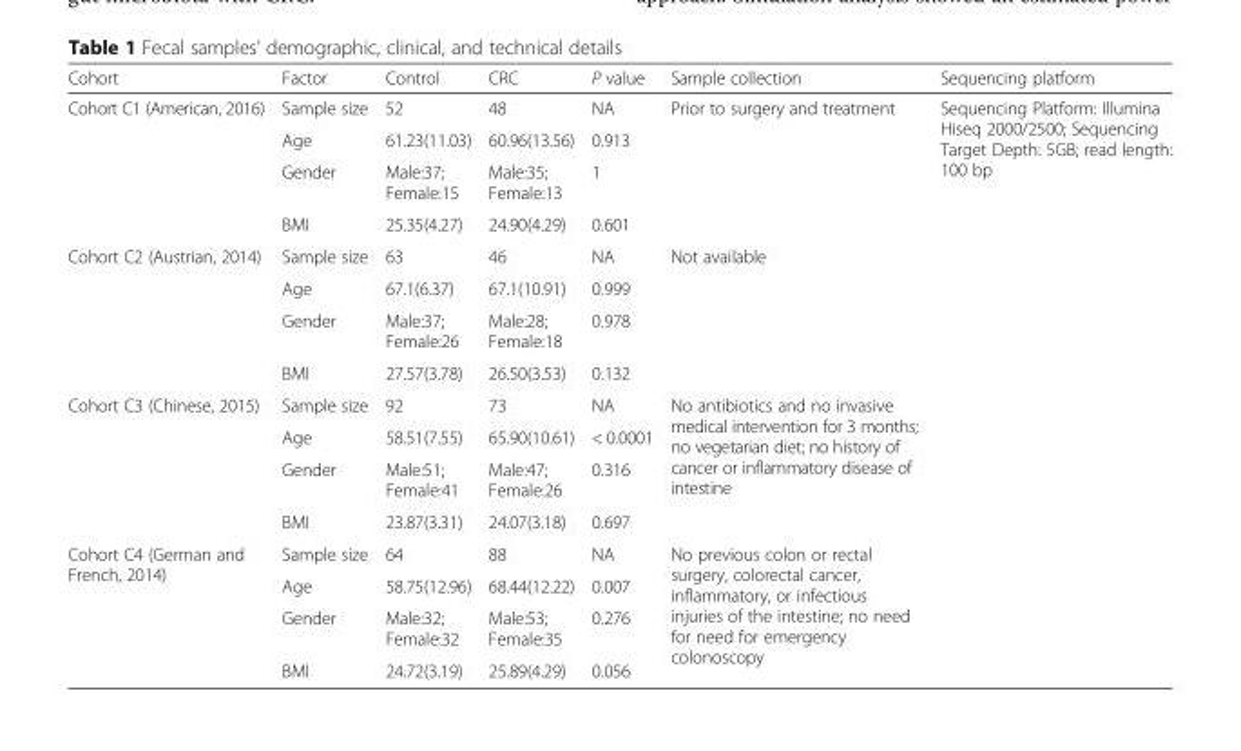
<table><thead><tr><td>Cohort</td><td>Factor</td><td>Control</td><td>CRC</td><td>P value</td><td>Sample collection</td><td>Sequencing platform</td></tr></thead><tbody><tr><td rowspan="4">Cohort C1 (American, 2016)</td><td>Sample size</td><td>52</td><td>48</td><td>NA</td><td rowspan="4">Prior to surgery and treatment</td><td rowspan="16">Sequencing Platform: Illumina Hiseq 2000/2500; Sequencing Target Depth: 5GB; read length: 100 bp</td></tr><tr><td>Age</td><td>61.23(11.03)</td><td>60.96(13.56)</td><td>0.913</td></tr><tr><td>Gender</td><td>Male:37; Female:15</td><td>Male:35; Female:13</td><td>1</td></tr><tr><td>BMI</td><td>25.35(4.27)</td><td>24.90(4.29)</td><td>0.601</td></tr><tr><td rowspan="4">Cohort C2 (Austrian, 2014)</td><td>Sample size</td><td>63</td><td>46</td><td>NA</td><td rowspan="4">Not available</td></tr><tr><td>Age</td><td>67.1(6.37)</td><td>67.1(10.91)</td><td>0.999</td></tr><tr><td>Gender</td><td>Male:37; Female:26</td><td>Male:28; Female:18</td><td>0.978</td></tr><tr><td>BMI</td><td>27.57(3.78)</td><td>26.50(3.53)</td><td>0.132</td></tr><tr><td rowspan="4">Cohort C3 (Chinese, 2015)</td><td>Sample size</td><td>92</td><td>73</td><td>NA</td><td rowspan="4">No antibiotics and no invasive medical intervention for 3 months; no vegetarian diet; no history of cancer or inflammatory disease of intestine</td></tr><tr><td>Age</td><td>58.51(7.55)</td><td>65.90(10.61)</td><td>&lt; 0.0001</td></tr><tr><td>Gender</td><td>Male:51; Female:41</td><td>Male:47; Female:26</td><td>0.316</td></tr><tr><td>BMI</td><td>23.87(3.31)</td><td>24.07(3.18)</td><td>0.697</td></tr><tr><td rowspan="4">Cohort C4 (German and French, 2014)</td><td>Sample size</td><td>64</td><td>88</td><td>NA</td><td rowspan="4">No previous colon or rectal surgery, colorectal cancer, inflammatory, or infectious injuries of the intestine; no need for need for emergency colonoscopy</td></tr><tr><td>Age</td><td>58.75(12.96)</td><td>68.44(12.22)</td><td>0.007</td></tr><tr><td>Gender</td><td>Male:32; Female:32</td><td>Male:53; Female:35</td><td>0.276</td></tr><tr><td>BMI</td><td>24.72(3.19)</td><td>25.89(4.29)</td><td>0.056</td></tr></tbody></table>